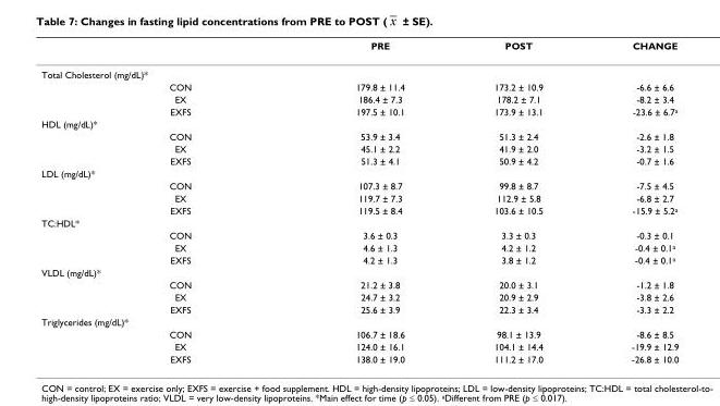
<table><thead><tr><td></td><td>PRE</td><td>POST</td><td>CHANGE</td></tr></thead><tbody><tr><td colspan="4">Total Cholesterol (mg/dL)*</td></tr><tr><td>CON</td><td>179.8 ± 11.4</td><td>173.2 ± 10.9</td><td>-6.6 ± 6.6</td></tr><tr><td>EX</td><td>186.4 ± 7.3</td><td>178.2 ± 7.1</td><td>-8.2 ± 3.4</td></tr><tr><td>EXFS</td><td>197.5 ± 10.1</td><td>173.9 ± 13.1</td><td>-23.6 ± 6.7<sup>a</sup></td></tr><tr><td colspan="4">HDL (mg/dL)*</td></tr><tr><td>CON</td><td>53.9 ± 3.4</td><td>51.3 ± 2.4</td><td>-2.6 ± 1.8</td></tr><tr><td>EX</td><td>45.1 ± 2.2</td><td>41.9 ± 2.0</td><td>-3.2 ± 1.5</td></tr><tr><td>EXFS</td><td>51.3 ± 4.1</td><td>50.9 ± 4.2</td><td>-0.7 ± 1.6</td></tr><tr><td colspan="4">LDL (mg/dL)*</td></tr><tr><td>CON</td><td>107.3 ± 8.7</td><td>99.8 ± 8.7</td><td>-7.5 ± 4.5</td></tr><tr><td>EX</td><td>119.7 ± 7.3</td><td>112.9 ± 5.8</td><td>-6.8 ± 2.7</td></tr><tr><td>EXFS</td><td>119.5 ± 8.4</td><td>103.6 ± 10.5</td><td>-15.9 ± 5.2<sup>a</sup></td></tr><tr><td colspan="4">TC:HDL*</td></tr><tr><td>CON</td><td>3.6 ± 0.3</td><td>3.3 ± 0.3</td><td>-0.3 ± 0.1</td></tr><tr><td>EX</td><td>4.6 ± 1.3</td><td>4.2 ± 1.2</td><td>-0.4 ± 0.1<sup>a</sup></td></tr><tr><td>EXFS</td><td>4.2 ± 1.3</td><td>3.8 ± 1.2</td><td>-0.4 ± 0.1<sup>a</sup></td></tr><tr><td colspan="4">VLDL (mg/dL)*</td></tr><tr><td>CON</td><td>21.2 ± 3.8</td><td>20.0 ± 3.1</td><td>-1.2 ± 1.8</td></tr><tr><td>EX</td><td>24.7 ± 3.2</td><td>20.9 ± 2.9</td><td>-3.8 ± 2.6</td></tr><tr><td>EXFS</td><td>25.6 ± 3.9</td><td>22.3 ± 3.4</td><td>-3.3 ± 2.2</td></tr><tr><td colspan="4">Triglycerides (mg/dL)*</td></tr><tr><td>CON</td><td>106.7 ± 18.6</td><td>98.1 ± 13.9</td><td>-8.6 ± 8.5</td></tr><tr><td>EX</td><td>124.0 ± 16.1</td><td>104.1 ± 14.4</td><td>-19.9 ± 12.9</td></tr><tr><td>EXFS</td><td>138.0 ± 19.0</td><td>111.2 ± 17.0</td><td>-26.8 ± 10.0</td></tr></tbody></table>